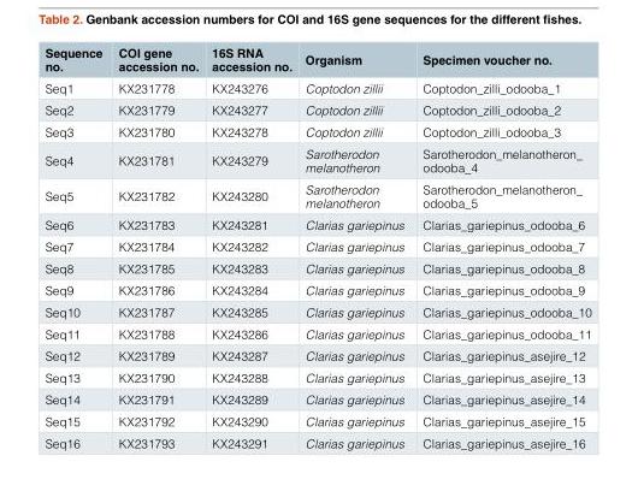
<table><thead><tr><td>Sequence no.</td><td>COI gene accession no.</td><td>16S RNA accession no.</td><td>Organism</td><td>Specimen voucher no.</td></tr></thead><tbody><tr><td>Seq1</td><td>KX231778</td><td>KX243276</td><td>Coptodon zillii</td><td>Coptodon_zilli_odooba_1</td></tr><tr><td>Seq2</td><td>KX231779</td><td>KX243277</td><td>Coptodon zillii</td><td>Coptodon_zilli_odooba_2</td></tr><tr><td>Seq3</td><td>KX231780</td><td>KX243278</td><td>Coptodon zillii</td><td>Coptodon_zilli_odooba_3</td></tr><tr><td>Seq4</td><td>KX231781</td><td>KX243279</td><td>Sarotherodon melanotheron</td><td>Sarotherodon_melanotheron_ odooba_4</td></tr><tr><td>Seq5</td><td>KX231782</td><td>KX243280</td><td>Sarotherodon melanotheron</td><td>Sarotherodon_melanotheron_ odooba_5</td></tr><tr><td>Seq6</td><td>KX231783</td><td>KX243281</td><td>Clarias gariepinus</td><td>Clarias_gariepinus_odooba_6</td></tr><tr><td>Seq7</td><td>KX231784</td><td>KX243282</td><td>Clarias gariepinus</td><td>Clarias_gariepinus_odooba_7</td></tr><tr><td>Seq8</td><td>KX231785</td><td>KX243283</td><td>Clarias gariepinus</td><td>Clarias_gariepinus_odooba_8</td></tr><tr><td>Seq9</td><td>KX231786</td><td>KX243284</td><td>Clarias gariepinus</td><td>Clarias_gariepinus_odooba_9</td></tr><tr><td>Seq10</td><td>KX231787</td><td>KX243285</td><td>Clarias gariepinus</td><td>Clarias_gariepinus_odooba_10</td></tr><tr><td>Seq11</td><td>KX231788</td><td>KX243286</td><td>Clarias gariepinus</td><td>Clarias_gariepinus_odooba_11</td></tr><tr><td>Seq12</td><td>KX231789</td><td>KX243287</td><td>Clarias gariepinus</td><td>Clarias_gariepinus_asejire_12</td></tr><tr><td>Seq13</td><td>KX231790</td><td>KX243288</td><td>Clarias gariepinus</td><td>Clarias_gariepinus_asejire_13</td></tr><tr><td>Seq14</td><td>KX231791</td><td>KX243289</td><td>Clarias gariepinus</td><td>Clarias_gariepinus_asejire_14</td></tr><tr><td>Seq15</td><td>KX231792</td><td>KX243290</td><td>Clarias gariepinus</td><td>Clarias_gariepinus_asejire_15</td></tr><tr><td>Seq16</td><td>KX231793</td><td>KX243291</td><td>Clarias gariepinus</td><td>Clarias_gariepinus_asejire_16</td></tr></tbody></table>